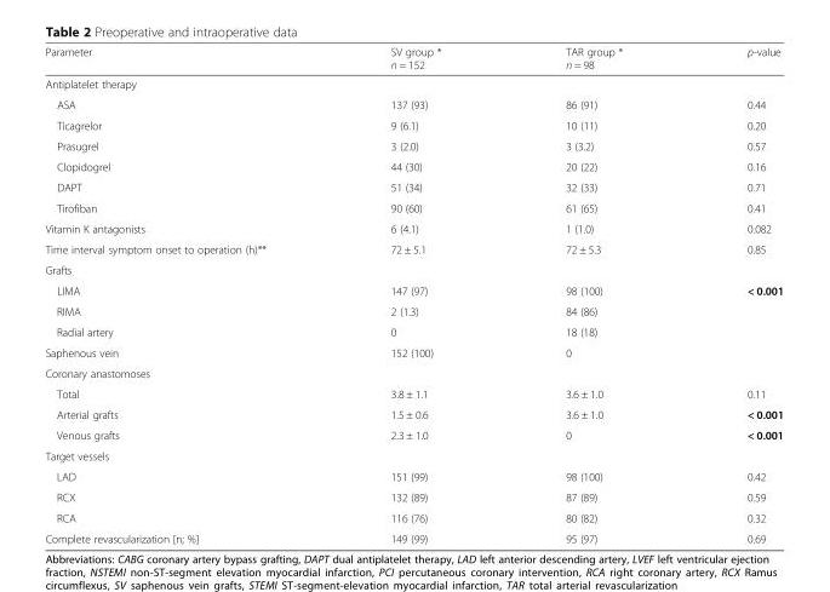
<table><thead><tr><td>Parameter</td><td>SV group * n = 152</td><td>TAR group * n = 98</td><td>p-value</td></tr></thead><tbody><tr><td colspan="4">Antiplatelet therapy</td></tr><tr><td>ASA</td><td>137 (93)</td><td>86 (91)</td><td>0.44</td></tr><tr><td>Ticagrelor</td><td>9 (6.1)</td><td>10 (11)</td><td>0.20</td></tr><tr><td>Prasugrel</td><td>3 (2.0)</td><td>3 (3.2)</td><td>0.57</td></tr><tr><td>Clopidogrel</td><td>44 (30)</td><td>20 (22)</td><td>0.16</td></tr><tr><td>DAPT</td><td>51 (34)</td><td>32 (33)</td><td>0.71</td></tr><tr><td>Tirofiban</td><td>90 (60)</td><td>61 (65)</td><td>0.41</td></tr><tr><td>Vitamin K antagonists</td><td>6 (4.1)</td><td>1 (1.0)</td><td>0.082</td></tr><tr><td>Time interval symptom onset to operation (h)**</td><td>72 ± 5.1</td><td>72 ± 5.3</td><td>0.85</td></tr><tr><td colspan="4">Grafts</td></tr><tr><td>LIMA</td><td>147 (97)</td><td>98 (100)</td><td rowspan="3">&lt; 0.001</td></tr><tr><td>RIMA</td><td>2 (1.3)</td><td>84 (86)</td></tr><tr><td>Radial artery</td><td>0</td><td>18 (18)</td></tr><tr><td>Saphenous vein</td><td>152 (100)</td><td>0</td><td></td></tr><tr><td colspan="4">Coronary anastomoses</td></tr><tr><td>Total</td><td>3.8 ± 1.1</td><td>3.6 ± 1.0</td><td>0.11</td></tr><tr><td>Arterial grafts</td><td>1.5 ± 0.6</td><td>3.6 ± 1.0</td><td>&lt; 0.001</td></tr><tr><td>Venous grafts</td><td>2.3 ± 1.0</td><td>0</td><td>&lt; 0.001</td></tr><tr><td colspan="4">Target vessels</td></tr><tr><td>LAD</td><td>151 (99)</td><td>98 (100)</td><td>0.42</td></tr><tr><td>RCX</td><td>132 (89)</td><td>87 (89)</td><td>0.59</td></tr><tr><td>RCA</td><td>116 (76)</td><td>80 (82)</td><td>0.32</td></tr><tr><td>Complete revascularization [n; %]</td><td>149 (99)</td><td>95 (97)</td><td>0.69</td></tr></tbody></table>